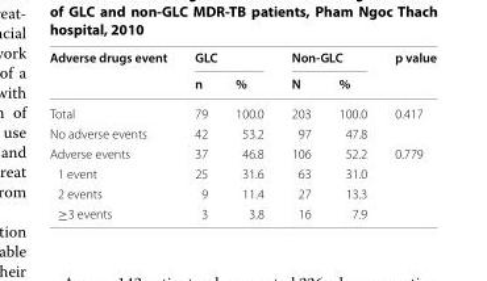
<table><thead><tr><td rowspan="2">Adverse drugs event</td><td colspan="2">GLC</td><td colspan="2">Non‑GLC</td><td rowspan="2">p value</td></tr><tr><td>n</td><td>%</td><td>N</td><td>%</td></tr></thead><tbody><tr><td>Total</td><td>79</td><td>100.0</td><td>203</td><td>100.0</td><td>0.417</td></tr><tr><td>No adverse events</td><td>42</td><td>53.2</td><td>97</td><td>47.8</td><td></td></tr><tr><td>Adverse events</td><td>37</td><td>46.8</td><td>106</td><td>52.2</td><td>0.779</td></tr><tr><td>1 event</td><td>25</td><td>31.6</td><td>63</td><td>31.0</td><td></td></tr><tr><td>2 events</td><td>9</td><td>11.4</td><td>27</td><td>13.3</td><td></td></tr><tr><td>≥3 events</td><td>3</td><td>3.8</td><td>16</td><td>7.9</td><td></td></tr></tbody></table>